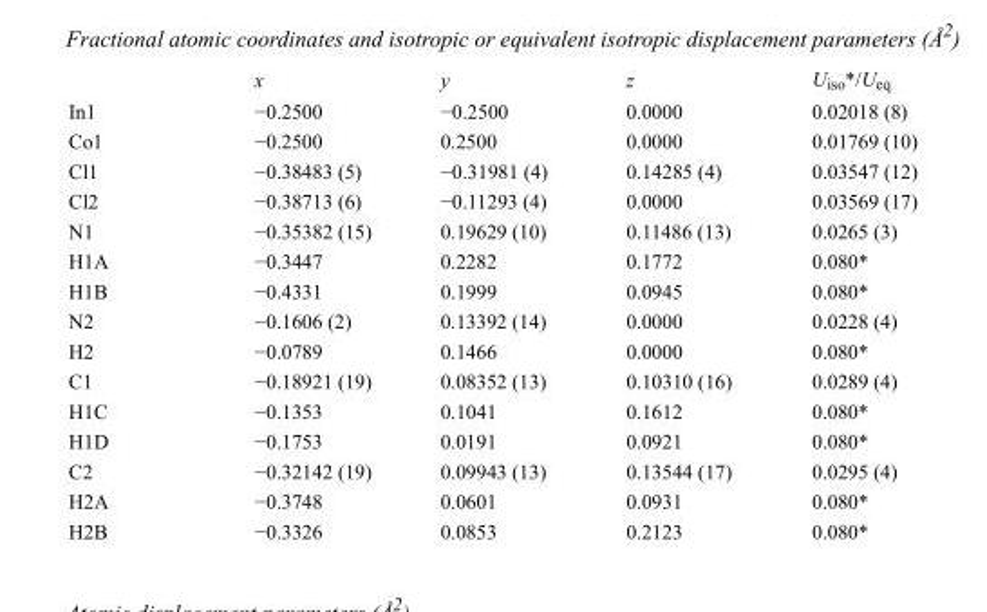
<table><thead><tr><td></td><td>x</td><td>y</td><td>z</td><td>U<sub>iso</sub>*/U<sub>eq</sub></td></tr></thead><tbody><tr><td>In1</td><td>−0.2500</td><td>−0.2500</td><td>0.0000</td><td>0.02018 (8)</td></tr><tr><td>Co1</td><td>−0.2500</td><td>0.2500</td><td>0.0000</td><td>0.01769 (10)</td></tr><tr><td>Cl1</td><td>−0.38483 (5)</td><td>−0.31981 (4)</td><td>0.14285 (4)</td><td>0.03547 (12)</td></tr><tr><td>Cl2</td><td>−0.38713 (6)</td><td>−0.11293 (4)</td><td>0.0000</td><td>0.03569 (17)</td></tr><tr><td>N1</td><td>−0.35382 (15)</td><td>0.19629 (10)</td><td>0.11486 (13)</td><td>0.0265 (3)</td></tr><tr><td>H1A</td><td>−0.3447</td><td>0.2282</td><td>0.1772</td><td>0.080*</td></tr><tr><td>H1B</td><td>−0.4331</td><td>0.1999</td><td>0.0945</td><td>0.080*</td></tr><tr><td>N2</td><td>−0.1606 (2)</td><td>0.13392 (14)</td><td>0.0000</td><td>0.0228 (4)</td></tr><tr><td>H2</td><td>−0.0789</td><td>0.1466</td><td>0.0000</td><td>0.080*</td></tr><tr><td>C1</td><td>−0.18921 (19)</td><td>0.08352 (13)</td><td>0.10310 (16)</td><td>0.0289 (4)</td></tr><tr><td>H1C</td><td>−0.1353</td><td>0.1041</td><td>0.1612</td><td>0.080*</td></tr><tr><td>H1D</td><td>−0.1753</td><td>0.0191</td><td>0.0921</td><td>0.080*</td></tr><tr><td>C2</td><td>−0.32142 (19)</td><td>0.09943 (13)</td><td>0.13544 (17)</td><td>0.0295 (4)</td></tr><tr><td>H2A</td><td>−0.3748</td><td>0.0601</td><td>0.0931</td><td>0.080*</td></tr><tr><td>H2B</td><td>−0.3326</td><td>0.0853</td><td>0.2123</td><td>0.080*</td></tr></tbody></table>